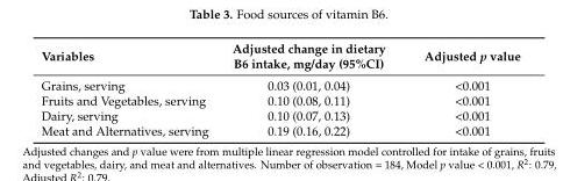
<table><thead><tr><td>Variables</td><td>Adjusted change in dietary B6 intake, mg/day (95%CI)</td><td>Adjusted p value</td></tr></thead><tbody><tr><td>Grains, serving</td><td>0.03 (0.01, 0.04)</td><td>&lt;0.001</td></tr><tr><td>Fruits and Vegetables, serving</td><td>0.10 (0.08, 0.11)</td><td>&lt;0.001</td></tr><tr><td>Dairy, serving</td><td>0.10 (0.07, 0.13)</td><td>&lt;0.001</td></tr><tr><td>Meat and Alternatives, serving</td><td>0.19 (0.16, 0.22)</td><td>&lt;0.001</td></tr></tbody></table>